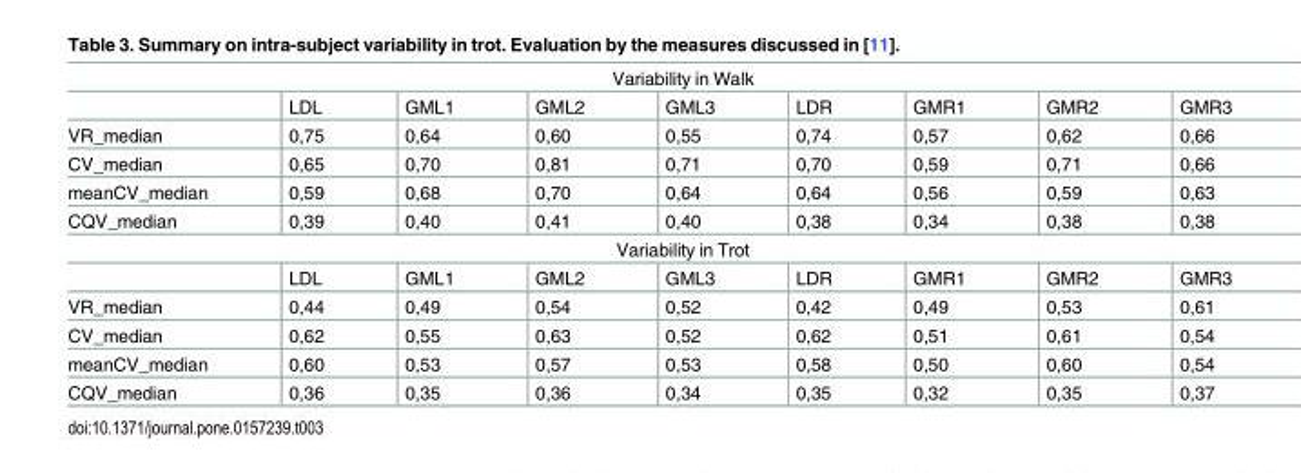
<table><tbody><tr><td colspan="9">Variability in Walk</td></tr><tr><td></td><td>LDL</td><td>GML1</td><td>GML2</td><td>GML3</td><td>LDR</td><td>GMR1</td><td>GMR2</td><td>GMR3</td></tr><tr><td>VR_median</td><td>0,75</td><td>0,64</td><td>0,60</td><td>0,55</td><td>0,74</td><td>0,57</td><td>0,62</td><td>0,66</td></tr><tr><td>CV_median</td><td>0,65</td><td>0,70</td><td>0,81</td><td>0,71</td><td>0,70</td><td>0,59</td><td>0,71</td><td>0,66</td></tr><tr><td>meanCV_median</td><td>0,59</td><td>0,68</td><td>0,70</td><td>0,64</td><td>0,64</td><td>0,56</td><td>0,59</td><td>0,63</td></tr><tr><td>CQV_median</td><td>0,39</td><td>0,40</td><td>0,41</td><td>0,40</td><td>0,38</td><td>0,34</td><td>0,38</td><td>0,38</td></tr><tr><td colspan="9">Variability in Trot</td></tr><tr><td></td><td>LDL</td><td>GML1</td><td>GML2</td><td>GML3</td><td>LDR</td><td>GMR1</td><td>GMR2</td><td>GMR3</td></tr><tr><td>VR_median</td><td>0,44</td><td>0,49</td><td>0,54</td><td>0,52</td><td>0,42</td><td>0,49</td><td>0,53</td><td>0,61</td></tr><tr><td>CV_median</td><td>0,62</td><td>0,55</td><td>0,63</td><td>0,52</td><td>0,62</td><td>0,51</td><td>0,61</td><td>0,54</td></tr><tr><td>meanCV_median</td><td>0,60</td><td>0,53</td><td>0,57</td><td>0,53</td><td>0,58</td><td>0,50</td><td>0,60</td><td>0,54</td></tr><tr><td>CQV_median</td><td>0,36</td><td>0,35</td><td>0,36</td><td>0,34</td><td>0,35</td><td>0,32</td><td>0,35</td><td>0,37</td></tr></tbody></table>